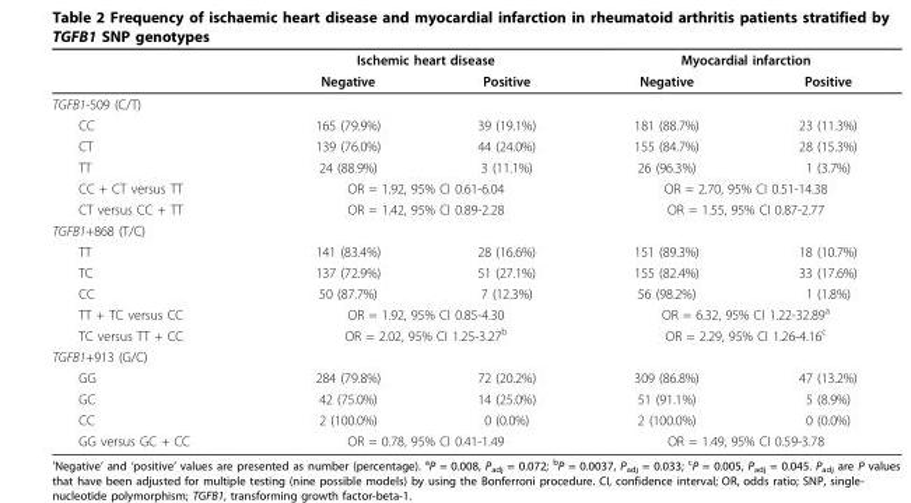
<table><thead><tr><td rowspan="2"></td><td colspan="2">Ischemic heart disease</td><td colspan="2">Myocardial infarction</td></tr><tr><td>Negative</td><td>Positive</td><td>Negative</td><td>Positive</td></tr></thead><tbody><tr><td colspan="5">TGFB1-509 (C/T)</td></tr><tr><td>CC</td><td>165 (79.9%)</td><td>39 (19.1%)</td><td>181 (88.7%)</td><td>23 (11.3%)</td></tr><tr><td>CT</td><td>139 (76.0%)</td><td>44 (24.0%)</td><td>155 (84.7%)</td><td>28 (15.3%)</td></tr><tr><td>TT</td><td>24 (88.9%)</td><td>3 (11.1%)</td><td>26 (96.3%)</td><td>1 (3.7%)</td></tr><tr><td>CC + CT versus TT</td><td colspan="2">OR = 1.92, 95% CI 0.61-6.04</td><td colspan="2">OR = 2.70, 95% CI 0.51-14.38</td></tr><tr><td>CT versus CC + TT</td><td colspan="2">OR = 1.42, 95% CI 0.89-2.28</td><td colspan="2">OR = 1.55, 95% CI 0.87-2.77</td></tr><tr><td colspan="5">TGFB1+868 (T/C)</td></tr><tr><td>TT</td><td>141 (83.4%)</td><td>28 (16.6%)</td><td>151 (89.3%)</td><td>18 (10.7%)</td></tr><tr><td>TC</td><td>137 (72.9%)</td><td>51 (27.1%)</td><td>155 (82.4%)</td><td>33 (17.6%)</td></tr><tr><td>CC</td><td>50 (87.7%)</td><td>7 (12.3%)</td><td>56 (98.2%)</td><td>1 (1.8%)</td></tr><tr><td>TT + TC versus CC</td><td colspan="2">OR = 1.92, 95% CI 0.85-4.30</td><td colspan="2">OR = 6.32, 95% CI 1.22-32.89<sup>a</sup></td></tr><tr><td>TC versus TT + CC</td><td colspan="2">OR = 2.02, 95% CI 1.25-3.27<sup>b</sup></td><td colspan="2">OR = 2.29, 95% CI 1.26-4.16<sup>c</sup></td></tr><tr><td colspan="5">TGFB1+913 (G/C)</td></tr><tr><td>GG</td><td>284 (79.8%)</td><td>72 (20.2%)</td><td>309 (86.8%)</td><td>47 (13.2%)</td></tr><tr><td>GC</td><td>42 (75.0%)</td><td>14 (25.0%)</td><td>51 (91.1%)</td><td>5 (8.9%)</td></tr><tr><td>CC</td><td>2 (100.0%)</td><td>0 (0.0%)</td><td>2 (100.0%)</td><td>0 (0.0%)</td></tr><tr><td>GG versus GC + CC</td><td colspan="2">OR = 0.78, 95% CI 0.41-1.49</td><td colspan="2">OR = 1.49, 95% CI 0.59-3.78</td></tr></tbody></table>